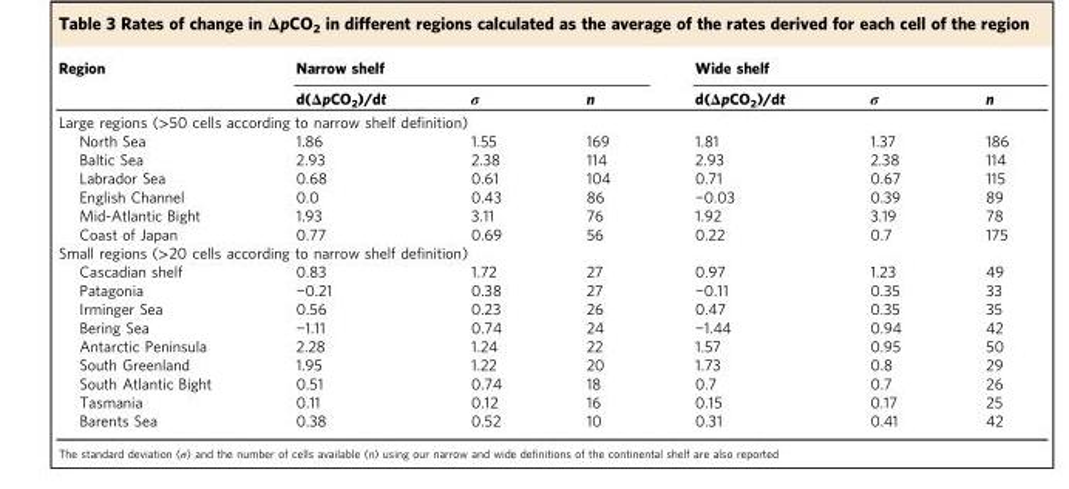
<table><thead><tr><td rowspan="2">Region</td><td colspan="3">Narrow shelf</td><td colspan="3">Wide shelf</td></tr><tr><td>d(ΔpCO<sub>2</sub>)/dt</td><td>σ</td><td>n</td><td>d(ΔpCO<sub>2</sub>)/dt</td><td>σ</td><td>n</td></tr></thead><tbody><tr><td colspan="7">Large regions (&gt;50 cells according to narrow shelf definition)</td></tr><tr><td>North Sea</td><td>1.86</td><td>1.55</td><td>169</td><td>1.81</td><td>1.37</td><td>186</td></tr><tr><td>Baltic Sea</td><td>2.93</td><td>2.38</td><td>114</td><td>2.93</td><td>2.38</td><td>114</td></tr><tr><td>Labrador Sea</td><td>0.68</td><td>0.61</td><td>104</td><td>0.71</td><td>0.67</td><td>115</td></tr><tr><td>English Channel</td><td>0.0</td><td>0.43</td><td>86</td><td>−0.03</td><td>0.39</td><td>89</td></tr><tr><td>Mid-Atlantic Bight</td><td>1.93</td><td>3.11</td><td>76</td><td>1.92</td><td>3.19</td><td>78</td></tr><tr><td>Coast of Japan</td><td>0.77</td><td>0.69</td><td>56</td><td>0.22</td><td>0.7</td><td>175</td></tr><tr><td colspan="7">Small regions (&gt;20 cells according to narrow shelf definition)</td></tr><tr><td>Cascadian shelf</td><td>0.83</td><td>1.72</td><td>27</td><td>0.97</td><td>1.23</td><td>49</td></tr><tr><td>Patagonia</td><td>−0.21</td><td>0.38</td><td>27</td><td>−0.11</td><td>0.35</td><td>33</td></tr><tr><td>Irminger Sea</td><td>0.56</td><td>0.23</td><td>26</td><td>0.47</td><td>0.35</td><td>35</td></tr><tr><td>Bering Sea</td><td>−1.11</td><td>0.74</td><td>24</td><td>−1.44</td><td>0.94</td><td>42</td></tr><tr><td>Antarctic Peninsula</td><td>2.28</td><td>1.24</td><td>22</td><td>1.57</td><td>0.95</td><td>50</td></tr><tr><td>South Greenland</td><td>1.95</td><td>1.22</td><td>20</td><td>1.73</td><td>0.8</td><td>29</td></tr><tr><td>South Atlantic Bight</td><td>0.51</td><td>0.74</td><td>18</td><td>0.7</td><td>0.7</td><td>26</td></tr><tr><td>Tasmania</td><td>0.11</td><td>0.12</td><td>16</td><td>0.15</td><td>0.17</td><td>25</td></tr><tr><td>Barents Sea</td><td>0.38</td><td>0.52</td><td>10</td><td>0.31</td><td>0.41</td><td>42</td></tr></tbody></table>